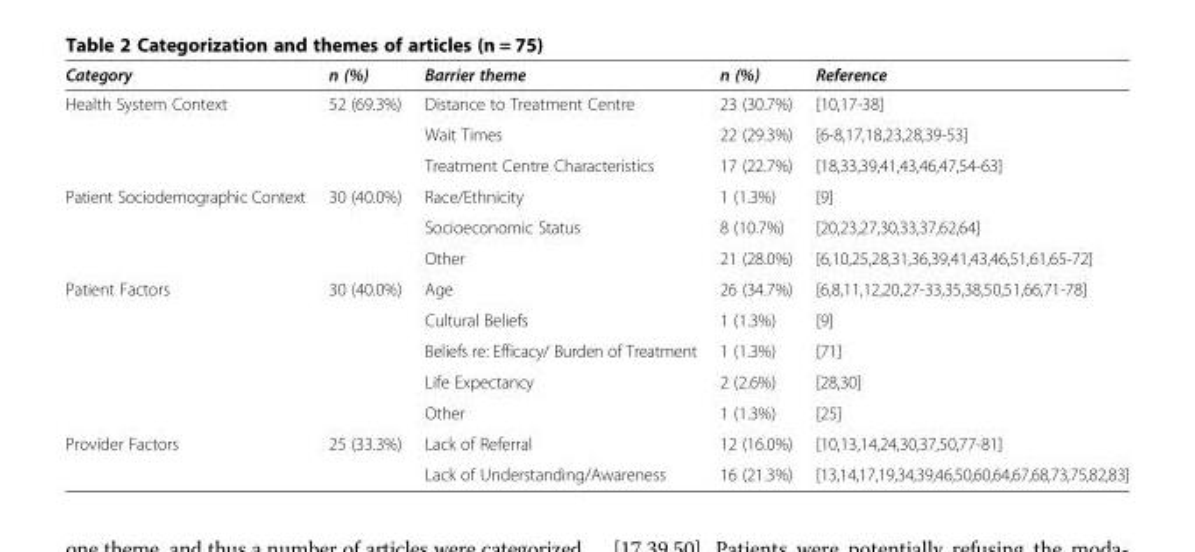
<table><thead><tr><td>Category</td><td>n (%)</td><td>Barrier theme</td><td>n (%)</td><td>Reference</td></tr></thead><tbody><tr><td rowspan="3">Health System Context</td><td rowspan="3">52 (69.3%)</td><td>Distance to Treatment Centre</td><td>23 (30.7%)</td><td>[10,17-38]</td></tr><tr><td>Wait Times</td><td>22 (29.3%)</td><td>[6-8,17,18,23,28,39-53]</td></tr><tr><td>Treatment Centre Characteristics</td><td>17 (22.7%)</td><td>[18,33,39,41,43,46,47,54-63]</td></tr><tr><td rowspan="3">Patient Sociodemographic Context</td><td rowspan="3">30 (40.0%)</td><td>Race/Ethnicity</td><td>1 (1.3%)</td><td>[9]</td></tr><tr><td>Socioeconomic Status</td><td>8 (10.7%)</td><td>[20,23,27,30,33,37,62,64]</td></tr><tr><td>Other</td><td>21 (28.0%)</td><td>[6,10,25,28,31,36,39,41,43,46,51,61,65-72]</td></tr><tr><td rowspan="5">Patient Factors</td><td rowspan="5">30 (40.0%)</td><td>Age</td><td>26 (34.7%)</td><td>[6,8,11,12,20,27-33,35,38,50,51,66,71-78]</td></tr><tr><td>Cultural Beliefs</td><td>1 (1.3%)</td><td>[9]</td></tr><tr><td>Beliefs re: Efficacy/ Burden of Treatment</td><td>1 (1.3%)</td><td>[71]</td></tr><tr><td>Life Expectancy</td><td>2 (2.6%)</td><td>[28,30]</td></tr><tr><td>Other</td><td>1 (1.3%)</td><td>[25]</td></tr><tr><td rowspan="2">Provider Factors</td><td>25 (33.3%)</td><td>Lack of Referral</td><td>12 (16.0%)</td><td>[10,13,14,24,30,37,50,77-81]</td></tr><tr><td></td><td>Lack of Understanding/Awareness</td><td>16 (21.3%)</td><td>[13,14,17,19,34,39,46,50,60,64,67,68,73,75,82,83]</td></tr></tbody></table>